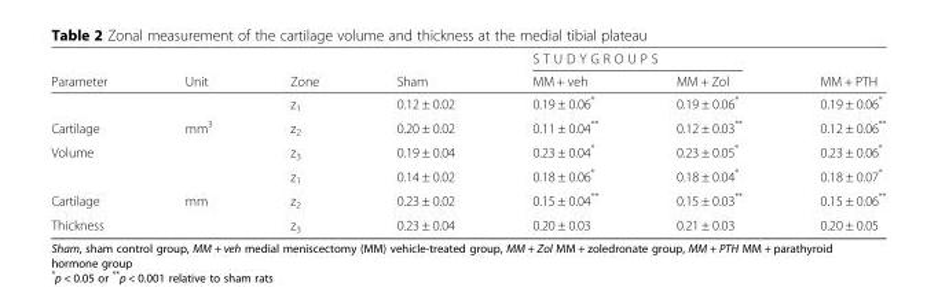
<table><thead><tr><td rowspan="2">Parameter</td><td rowspan="2">Unit</td><td rowspan="2">Zone</td><td rowspan="2">Sham</td><td colspan="2">S T U D Y G R O U P S</td><td rowspan="2">MM + PTH</td></tr><tr><td>MM + veh</td><td>MM + Zol</td></tr></thead><tbody><tr><td></td><td></td><td>z<sub>1</sub></td><td>0.12 ± 0.02</td><td>0.19 ± 0.06*</td><td>0.19 ± 0.06*</td><td>0.19 ± 0.06*</td></tr><tr><td>Cartilage</td><td>mm<sup>3</sup></td><td>z<sub>2</sub></td><td>0.20 ± 0.02</td><td>0.11 ± 0.04**</td><td>0.12 ± 0.03**</td><td>0.12 ± 0.06**</td></tr><tr><td rowspan="2">Volume</td><td></td><td>z<sub>3</sub></td><td>0.19 ± 0.04</td><td>0.23 ± 0.04*</td><td>0.23 ± 0.05*</td><td>0.23 ± 0.06*</td></tr><tr><td></td><td>z<sub>1</sub></td><td>0.14 ± 0.02</td><td>0.18 ± 0.06*</td><td>0.18 ± 0.04*</td><td>0.18 ± 0.07*</td></tr><tr><td>Cartilage</td><td>mm</td><td>z<sub>2</sub></td><td>0.23 ± 0.02</td><td>0.15 ± 0.04**</td><td>0.15 ± 0.03**</td><td>0.15 ± 0.06**</td></tr><tr><td>Thickness</td><td></td><td>z<sub>3</sub></td><td>0.23 ± 0.04</td><td>0.20 ± 0.03</td><td>0.21 ± 0.03</td><td>0.20 ± 0.05</td></tr></tbody></table>